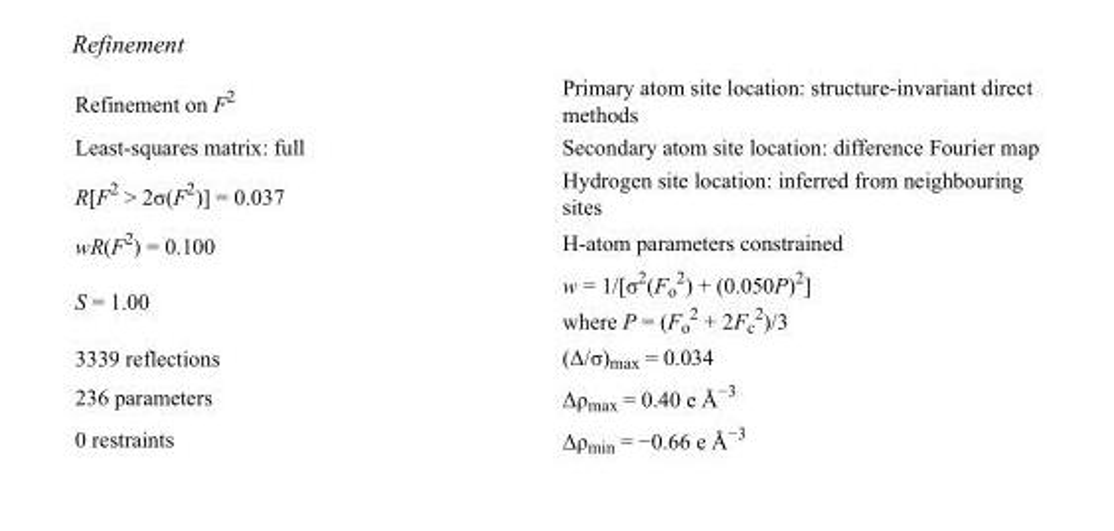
<table><tbody><tr><td>Refinement on F<sup>2</sup></td><td>Primary atom site location: structure-invariant direct methods</td></tr><tr><td>Least-squares matrix: full</td><td>Secondary atom site location: difference Fourier map</td></tr><tr><td>R[F<sup>2</sup> &gt; 2σ(F<sup>2</sup>)] = 0.037</td><td>Hydrogen site location: inferred from neighbouring sites</td></tr><tr><td>wR(F<sup>2</sup>) = 0.100</td><td>H-atom parameters constrained</td></tr><tr><td>S = 1.00</td><td>w = 1/[σ<sup>2</sup>(F<sub>o</sub> <sup>2</sup>) + (0.050P)<sup>2</sup>] where P = (F<sub>o</sub> <sup>2</sup> + 2F<sub>c</sub> <sup>2</sup>)/3</td></tr><tr><td>3339 reflections</td><td>(Δ/σ)<sub>max</sub> = 0.034</td></tr><tr><td>236 parameters</td><td>Δρ<sub>max</sub> = 0.40 e Å<sup>−3</sup></td></tr><tr><td>0 restraints</td><td>Δρ<sub>min</sub> = −0.66 e Å<sup>−3</sup></td></tr></tbody></table>